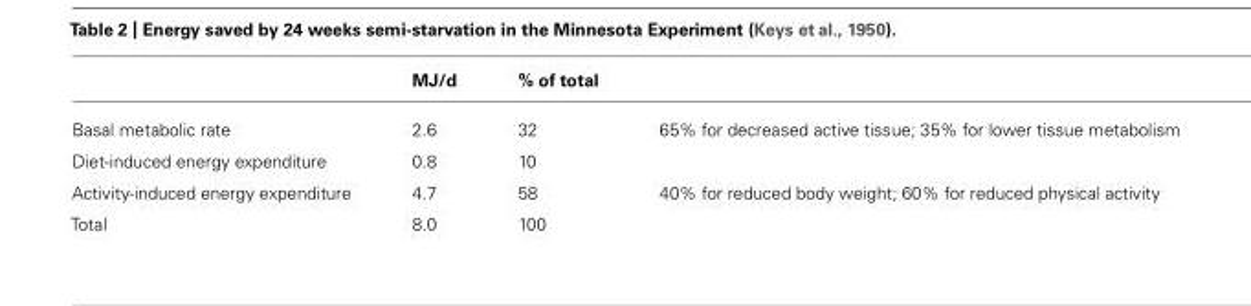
<table><thead><tr><td></td><td>MJ/d</td><td>% of total</td><td></td></tr></thead><tbody><tr><td>Basal metabolic rate</td><td>2.6</td><td>32</td><td>65% for decreased active tissue; 35% for lower tissue metabolism</td></tr><tr><td>Diet-induced energy expenditure</td><td>0.8</td><td>10</td><td></td></tr><tr><td>Activity-induced energy expenditure</td><td>4.7</td><td>58</td><td>40% for reduced body weight; 60% for reduced physical activity</td></tr><tr><td>Total</td><td>8.0</td><td>100</td><td></td></tr></tbody></table>